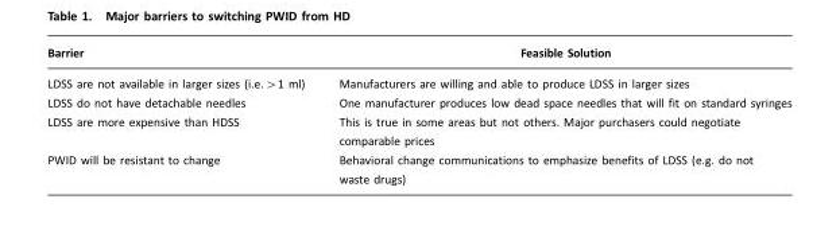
<table><thead><tr><td>Barrier</td><td>Feasible Solution</td></tr></thead><tbody><tr><td>LDSS are not available in larger sizes (i.e.&gt;1 ml)</td><td>Manufacturers are willing and able to produce LDSS in larger sizes</td></tr><tr><td>LDSS do not have detachable needles</td><td>One manufacturer produces low dead space needles that will fit on standard syringes</td></tr><tr><td>LDSS are more expensive than HDSS</td><td>This is true in some areas but not others. Major purchasers could negotiate comparable prices</td></tr><tr><td>PWID will be resistant to change</td><td>Behavioral change communications to emphasize benefits of LDSS (e.g. do not waste drugs)</td></tr></tbody></table>